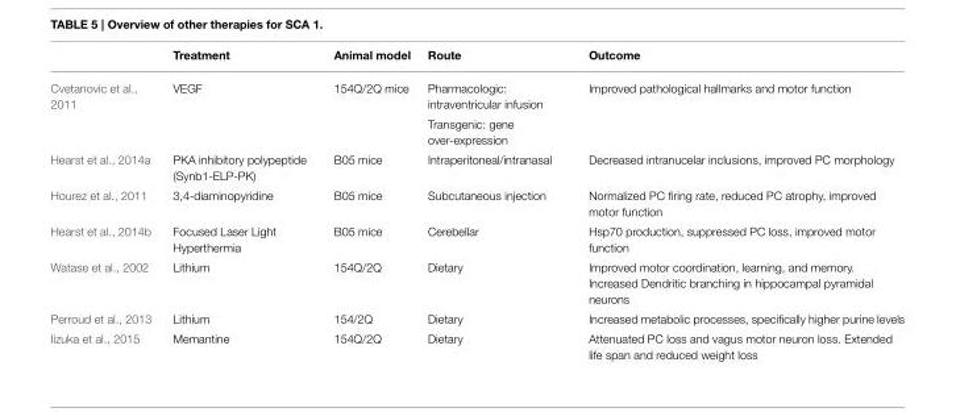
<table><thead><tr><td></td><td>Treatment</td><td>Animal model</td><td>Route</td><td>Outcome</td></tr></thead><tbody><tr><td rowspan="2">Cvetanovic et al., 2011</td><td>VEGF</td><td>154Q/2Q mice</td><td>Pharmacologic: intraventricular infusion</td><td>Improved pathological hallmarks and motor function</td></tr><tr><td></td><td></td><td>Transgenic: gene over-expression</td><td></td></tr><tr><td>Hearst et al., 2014a</td><td>PKA inhibitory polypeptide (Synb1-ELP-PK)</td><td>B05 mice</td><td>Intraperitoneal/intranasal</td><td>Decreased intranucelar inclusions, improved PC morphology</td></tr><tr><td>Hourez et al., 2011</td><td>3,4-diaminopyridine</td><td>B05 mice</td><td>Subcutaneous injection</td><td>Normalized PC firing rate, reduced PC atrophy, improved motor function</td></tr><tr><td>Hearst et al., 2014b</td><td>Focused Laser Light Hyperthermia</td><td>B05 mice</td><td>Cerebellar</td><td>Hsp70 production, suppressed PC loss, improved motor function</td></tr><tr><td>Watase et al., 2002</td><td>Lithium</td><td>154Q/2Q</td><td>Dietary</td><td>Improved motor coordination, learning, and memory. Increased Dendritic branching in hippocampal pyramidal neurons</td></tr><tr><td>Perroud et al., 2013</td><td>Lithium</td><td>154/2Q</td><td>Dietary</td><td>Increased metabolic processes, specifically higher purine levels</td></tr><tr><td>Iizuka et al., 2015</td><td>Memantine</td><td>154Q/2Q</td><td>Dietary</td><td>Attenuated PC loss and vagus motor neuron loss. Extended life span and reduced weight loss</td></tr></tbody></table>